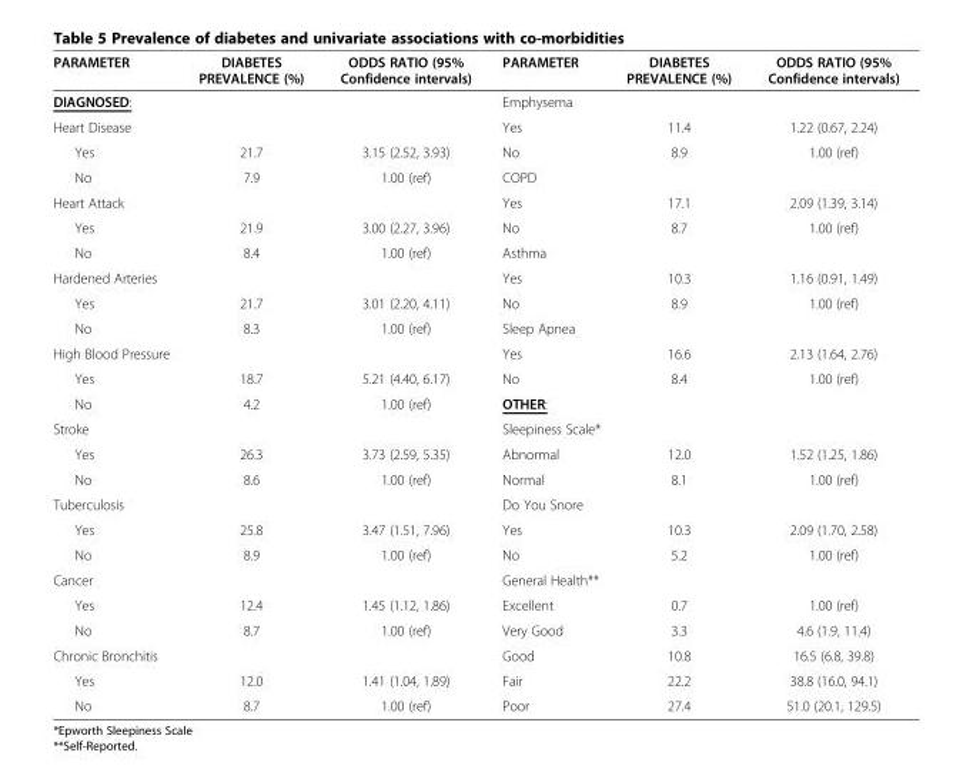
<table><thead><tr><td>PARAMETER</td><td>DIABETES PREVALENCE (%)</td><td>ODDS RATIO (95% Confidence intervals)</td><td>PARAMETER</td><td>DIABETES PREVALENCE (%)</td><td>ODDS RATIO (95% Confidence intervals)</td></tr></thead><tbody><tr><td>DIAGNOSED:</td><td></td><td></td><td>Emphysema</td><td></td><td></td></tr><tr><td>Heart Disease</td><td></td><td></td><td>Yes</td><td>11.4</td><td>1.22 (0.67, 2.24)</td></tr><tr><td>Yes</td><td>21.7</td><td>3.15 (2.52, 3.93)</td><td>No</td><td>8.9</td><td>1.00 (ref)</td></tr><tr><td>No</td><td>7.9</td><td>1.00 (ref)</td><td>COPD</td><td></td><td></td></tr><tr><td>Heart Attack</td><td></td><td></td><td>Yes</td><td>17.1</td><td>2.09 (1.39, 3.14)</td></tr><tr><td>Yes</td><td>21.9</td><td>3.00 (2.27, 3.96)</td><td>No</td><td>8.7</td><td>1.00 (ref)</td></tr><tr><td>No</td><td>8.4</td><td>1.00 (ref)</td><td>Asthma</td><td></td><td></td></tr><tr><td>Hardened Arteries</td><td></td><td></td><td>Yes</td><td>10.3</td><td>1.16 (0.91, 1.49)</td></tr><tr><td>Yes</td><td>21.7</td><td>3.01 (2.20, 4.11)</td><td>No</td><td>8.9</td><td>1.00 (ref)</td></tr><tr><td>No</td><td>8.3</td><td>1.00 (ref)</td><td>Sleep Apnea</td><td></td><td></td></tr><tr><td>High Blood Pressure</td><td></td><td></td><td>Yes</td><td>16.6</td><td>2.13 (1.64, 2.76)</td></tr><tr><td>Yes</td><td>18.7</td><td>5.21 (4.40, 6.17)</td><td>No</td><td>8.4</td><td>1.00 (ref)</td></tr><tr><td>No</td><td>4.2</td><td>1.00 (ref)</td><td>OTHER:</td><td></td><td></td></tr><tr><td>Stroke</td><td></td><td></td><td>Sleepiness Scale*</td><td></td><td></td></tr><tr><td>Yes</td><td>26.3</td><td>3.73 (2.59, 5.35)</td><td>Abnormal</td><td>12.0</td><td>1.52 (1.25, 1.86)</td></tr><tr><td>No</td><td>8.6</td><td>1.00 (ref)</td><td>Normal</td><td>8.1</td><td>1.00 (ref)</td></tr><tr><td>Tuberculosis</td><td></td><td></td><td>Do You Snore</td><td></td><td></td></tr><tr><td>Yes</td><td>25.8</td><td>3.47 (1.51, 7.96)</td><td>Yes</td><td>10.3</td><td>2.09 (1.70, 2.58)</td></tr><tr><td>No</td><td>8.9</td><td>1.00 (ref)</td><td>No</td><td>5.2</td><td>1.00 (ref)</td></tr><tr><td>Cancer</td><td></td><td></td><td>General Health**</td><td></td><td></td></tr><tr><td>Yes</td><td>12.4</td><td>1.45 (1.12, 1.86)</td><td>Excellent</td><td>0.7</td><td>1.00 (ref)</td></tr><tr><td>No</td><td>8.7</td><td>1.00 (ref)</td><td>Very Good</td><td>3.3</td><td>4.6 (1.9, 11.4)</td></tr><tr><td>Chronic Bronchitis</td><td></td><td></td><td>Good</td><td>10.8</td><td>16.5 (6.8, 39.8)</td></tr><tr><td>Yes</td><td>12.0</td><td>1.41 (1.04, 1.89)</td><td>Fair</td><td>22.2</td><td>38.8 (16.0, 94.1)</td></tr><tr><td>No</td><td>8.7</td><td>1.00 (ref)</td><td>Poor</td><td>27.4</td><td>51.0 (20.1, 129.5)</td></tr></tbody></table>